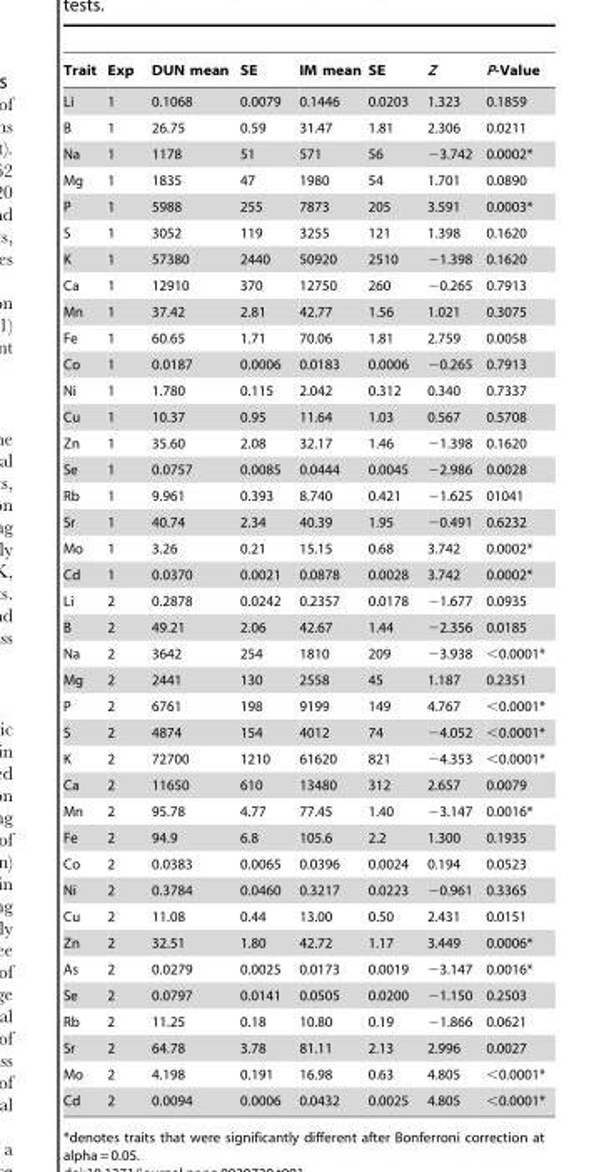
<table><thead><tr><td>Trait</td><td>Exp</td><td>DUN mean</td><td>SE</td><td>IM mean</td><td>SE</td><td>Z</td><td>P-Value</td></tr></thead><tbody><tr><td>Li</td><td>1</td><td>0.1068</td><td>0.0079</td><td>0.1446</td><td>0.0203</td><td>1.323</td><td>0.1859</td></tr><tr><td>B</td><td>1</td><td>26.75</td><td>0.59</td><td>31.47</td><td>1.81</td><td>2.306</td><td>0.0211</td></tr><tr><td>Na</td><td>1</td><td>1178</td><td>51</td><td>571</td><td>56</td><td>−3.742</td><td>0.0002*</td></tr><tr><td>Mg</td><td>1</td><td>1835</td><td>47</td><td>1980</td><td>54</td><td>1.701</td><td>0.0890</td></tr><tr><td>P</td><td>1</td><td>5988</td><td>255</td><td>7873</td><td>205</td><td>3.591</td><td>0.0003*</td></tr><tr><td>S</td><td>1</td><td>3052</td><td>119</td><td>3255</td><td>121</td><td>1.398</td><td>0.1620</td></tr><tr><td>K</td><td>1</td><td>57380</td><td>2440</td><td>50920</td><td>2510</td><td>−1.398</td><td>0.1620</td></tr><tr><td>Ca</td><td>1</td><td>12910</td><td>370</td><td>12750</td><td>260</td><td>−0.265</td><td>0.7913</td></tr><tr><td>Mn</td><td>1</td><td>37.42</td><td>2.81</td><td>42.77</td><td>1.56</td><td>1.021</td><td>0.3075</td></tr><tr><td>Fe</td><td>1</td><td>60.65</td><td>1.71</td><td>70.06</td><td>1.81</td><td>2.759</td><td>0.0058</td></tr><tr><td>Co</td><td>1</td><td>0.0187</td><td>0.0006</td><td>0.0183</td><td>0.0006</td><td>−0.265</td><td>0.7913</td></tr><tr><td>Ni</td><td>1</td><td>1.780</td><td>0.115</td><td>2.042</td><td>0.312</td><td>0.340</td><td>0.7337</td></tr><tr><td>Cu</td><td>1</td><td>10.37</td><td>0.95</td><td>11.64</td><td>1.03</td><td>0.567</td><td>0.5708</td></tr><tr><td>Zn</td><td>1</td><td>35.60</td><td>2.08</td><td>32.17</td><td>1.46</td><td>−1.398</td><td>0.1620</td></tr><tr><td>Se</td><td>1</td><td>0.0757</td><td>0.0085</td><td>0.0444</td><td>0.0045</td><td>−2.986</td><td>0.0028</td></tr><tr><td>Rb</td><td>1</td><td>9.961</td><td>0.393</td><td>8.740</td><td>0.421</td><td>−1.625</td><td>01041</td></tr><tr><td>Sr</td><td>1</td><td>40.74</td><td>2.34</td><td>40.39</td><td>1.95</td><td>−0.491</td><td>0.6232</td></tr><tr><td>Mo</td><td>1</td><td>3.26</td><td>0.21</td><td>15.15</td><td>0.68</td><td>3.742</td><td>0.0002*</td></tr><tr><td>Cd</td><td>1</td><td>0.0370</td><td>0.0021</td><td>0.0878</td><td>0.0028</td><td>3.742</td><td>0.0002*</td></tr><tr><td>Li</td><td>2</td><td>0.2878</td><td>0.0242</td><td>0.2357</td><td>0.0178</td><td>−1.677</td><td>0.0935</td></tr><tr><td>B</td><td>2</td><td>49.21</td><td>2.06</td><td>42.67</td><td>1.44</td><td>−2.356</td><td>0.0185</td></tr><tr><td>Na</td><td>2</td><td>3642</td><td>254</td><td>1810</td><td>209</td><td>−3.938</td><td>&lt;0.0001*</td></tr><tr><td>Mg</td><td>2</td><td>2441</td><td>130</td><td>2558</td><td>45</td><td>1.187</td><td>0.2351</td></tr><tr><td>P</td><td>2</td><td>6761</td><td>198</td><td>9199</td><td>149</td><td>4.767</td><td>&lt;0.0001*</td></tr><tr><td>S</td><td>2</td><td>4874</td><td>154</td><td>4012</td><td>74</td><td>−4.052</td><td>&lt;0.0001*</td></tr><tr><td>K</td><td>2</td><td>72700</td><td>1210</td><td>61620</td><td>821</td><td>−4.353</td><td>&lt;0.0001*</td></tr><tr><td>Ca</td><td>2</td><td>11650</td><td>610</td><td>13480</td><td>312</td><td>2.657</td><td>0.0079</td></tr><tr><td>Mn</td><td>2</td><td>95.78</td><td>4.77</td><td>77.45</td><td>1.40</td><td>−3.147</td><td>0.0016*</td></tr><tr><td>Fe</td><td>2</td><td>94.9</td><td>6.8</td><td>105.6</td><td>2.2</td><td>1.300</td><td>0.1935</td></tr><tr><td>Co</td><td>2</td><td>0.0383</td><td>0.0065</td><td>0.0396</td><td>0.0024</td><td>0.194</td><td>0.0523</td></tr><tr><td>Ni</td><td>2</td><td>0.3784</td><td>0.0460</td><td>0.3217</td><td>0.0223</td><td>−0.961</td><td>0.3365</td></tr><tr><td>Cu</td><td>2</td><td>11.08</td><td>0.44</td><td>13.00</td><td>0.50</td><td>2.431</td><td>0.0151</td></tr><tr><td>Zn</td><td>2</td><td>32.51</td><td>1.80</td><td>42.72</td><td>1.17</td><td>3.449</td><td>0.0006*</td></tr><tr><td>As</td><td>2</td><td>0.0279</td><td>0.0025</td><td>0.0173</td><td>0.0019</td><td>−3.147</td><td>0.0016*</td></tr><tr><td>Se</td><td>2</td><td>0.0797</td><td>0.0141</td><td>0.0505</td><td>0.0200</td><td>−1.150</td><td>0.2503</td></tr><tr><td>Rb</td><td>2</td><td>11.25</td><td>0.18</td><td>10.80</td><td>0.19</td><td>−1.866</td><td>0.0621</td></tr><tr><td>Sr</td><td>2</td><td>64.78</td><td>3.78</td><td>81.11</td><td>2.13</td><td>2.996</td><td>0.0027</td></tr><tr><td>Mo</td><td>2</td><td>4.198</td><td>0.191</td><td>16.98</td><td>0.63</td><td>4.805</td><td>&lt;0.0001*</td></tr><tr><td>Cd</td><td>2</td><td>0.0094</td><td>0.0006</td><td>0.0432</td><td>0.0025</td><td>4.805</td><td>&lt;0.0001*</td></tr></tbody></table>